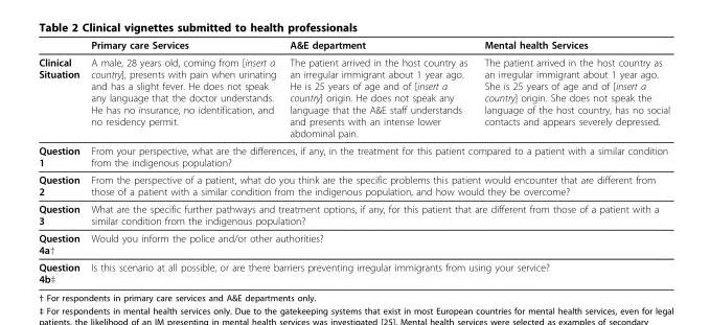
<table><thead><tr><td></td><td>Primary care Services</td><td>A&amp;E department</td><td>Mental health Services</td></tr></thead><tbody><tr><td>Clinical Situation</td><td>A male, 28 years old, coming from [insert a country], presents with pain when urinating and has a slight fever. He does not speak any language that the doctor understands. He has no insurance, no identification, and no residency permit.</td><td>The patient arrived in the host country as an irregular immigrant about 1 year ago. He is 25 years of age and of [insert a country] origin. He does not speak any language that the A&amp;E staff understands and presents with an intense lower abdominal pain.</td><td>The patient arrived in the host country as an irregular immigrant about 1 year ago. She is 25 years of age and of [insert a country] origin. She does not speak the language of the host country, has no social contacts and appears severely depressed.</td></tr><tr><td>Question 1</td><td colspan="3">From your perspective, what are the differences, if any, in the treatment for this patient compared to a patient with a similar condition from the indigenous population?</td></tr><tr><td>Question 2</td><td colspan="3">From the perspective of a patient, what do you think are the specific problems this patient would encounter that are different from those of a patient with a similar condition from the indigenous population, and how would they be overcome?</td></tr><tr><td>Question 3</td><td colspan="3">What are the specific further pathways and treatment options, if any, for this patient that are different from those of a patient with a similar condition from the indigenous population?</td></tr><tr><td>Question 4a†</td><td colspan="3">Would you inform the police and/or other authorities?</td></tr><tr><td>Question 4b‡</td><td colspan="3">Is this scenario at all possible, or are there barriers preventing irregular immigrants from using your service?</td></tr></tbody></table>